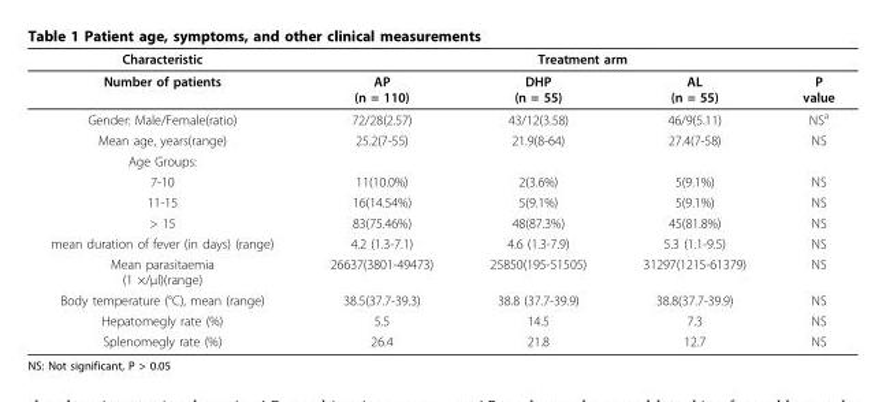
<table><thead><tr><td rowspan="2">Characteristic Number of patients</td><td colspan="4">Treatment arm</td></tr><tr><td>AP (n = 110)</td><td>DHP (n = 55)</td><td>AL (n = 55)</td><td>P value</td></tr></thead><tbody><tr><td>Gender: Male/Female(ratio)</td><td>72/28(2.57)</td><td>43/12(3.58)</td><td>46/9(5.11)</td><td>NS<sup>a</sup></td></tr><tr><td>Mean age, years(range)</td><td>25.2(7-55)</td><td>21.9(8-64)</td><td>27.4(7-58)</td><td>NS</td></tr><tr><td colspan="5">Age Groups:</td></tr><tr><td>7-10</td><td>11(10.0%)</td><td>2(3.6%)</td><td>5(9.1%)</td><td>NS</td></tr><tr><td>11-15</td><td>16(14.54%)</td><td>5(9.1%)</td><td>5(9.1%)</td><td>NS</td></tr><tr><td>&gt; 15</td><td>83(75.46%)</td><td>48(87.3%)</td><td>45(81.8%)</td><td>NS</td></tr><tr><td>mean duration of fever (in days) (range)</td><td>4.2 (1.3-7.1)</td><td>4.6 (1.3-7.9)</td><td>5.3 (1.1-9.5)</td><td>NS</td></tr><tr><td>Mean parasitaemia (1 ×/μl)(range)</td><td>26637(3801-49473)</td><td>25850(195-51505)</td><td>31297(1215-61379)</td><td>NS</td></tr><tr><td>Body temperature (°C), mean (range)</td><td>38.5(37.7-39.3)</td><td>38.8 (37.7-39.9)</td><td>38.8(37.7-39.9)</td><td>NS</td></tr><tr><td>Hepatomegly rate (%)</td><td>5.5</td><td>14.5</td><td>7.3</td><td>NS</td></tr><tr><td>Splenomegly rate (%)</td><td>26.4</td><td>21.8</td><td>12.7</td><td>NS</td></tr></tbody></table>